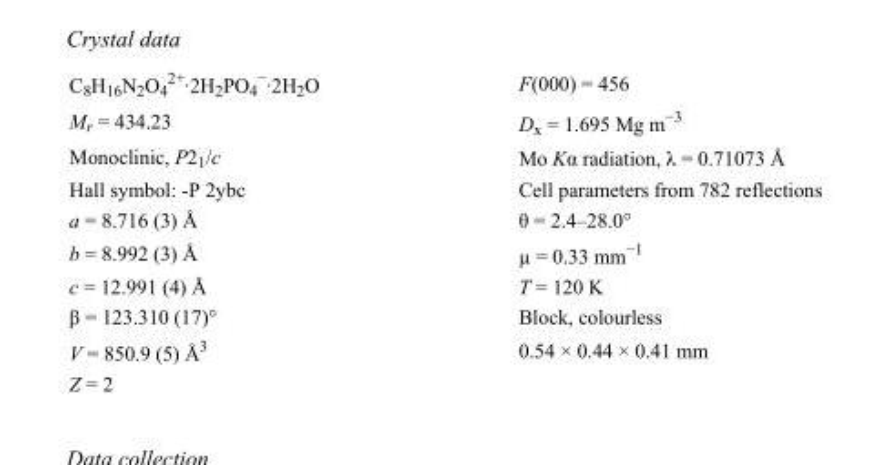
<table><tbody><tr><td>C<sub>8</sub>H<sub>16</sub>N<sub>2</sub>O<sub>4</sub> <sup>2+</sup>·2H<sub>2</sub>PO<sub>4</sub> <sup>−</sup>·2H<sub>2</sub>O</td><td>F(000) = 456</td></tr><tr><td>M<sub>r</sub> = 434.23</td><td>D<sub>x</sub> = 1.695 Mg m<sup>−3</sup></td></tr><tr><td>Monoclinic, P2<sub>1</sub>/c</td><td>Mo Kα radiation, λ = 0.71073 Å</td></tr><tr><td>Hall symbol: -P 2ybc</td><td>Cell parameters from 782 reflections</td></tr><tr><td>a = 8.716 (3) Å</td><td>θ = 2.4–28.0°</td></tr><tr><td>b = 8.992 (3) Å</td><td>µ = 0.33 mm<sup>−1</sup></td></tr><tr><td>c = 12.991 (4) Å</td><td>T = 120 K</td></tr><tr><td>β = 123.310 (17)°</td><td>Block, colourless</td></tr><tr><td>V = 850.9 (5) Å<sup>3</sup></td><td>0.54 × 0.44 × 0.41 mm</td></tr><tr><td>Z = 2</td><td></td></tr></tbody></table>